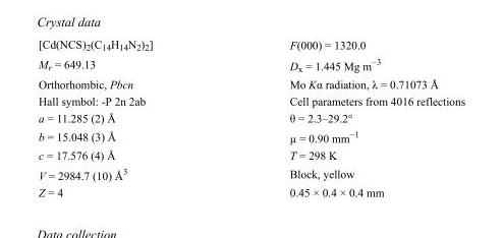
<table><tbody><tr><td>[Cd(NCS)<sub>2</sub>(C<sub>14</sub>H<sub>14</sub>N<sub>2</sub>)<sub>2</sub>]</td><td>F(000) = 1320.0</td></tr><tr><td>M<sub>r</sub> = 649.13</td><td>D<sub>x</sub> = 1.445 Mg m<sup>−3</sup></td></tr><tr><td>Orthorhombic, Pbcn</td><td>Mo Kα radiation, λ = 0.71073 Å</td></tr><tr><td>Hall symbol: -P 2n 2ab</td><td>Cell parameters from 4016 reflections</td></tr><tr><td>a = 11.285 (2) Å</td><td>θ = 2.3–29.2°</td></tr><tr><td>b = 15.048 (3) Å</td><td>µ = 0.90 mm<sup>−1</sup></td></tr><tr><td>c = 17.576 (4) Å</td><td>T = 298 K</td></tr><tr><td>V = 2984.7 (10) Å<sup>3</sup></td><td>Block, yellow</td></tr><tr><td>Z = 4</td><td>0.45 × 0.4 × 0.4 mm</td></tr></tbody></table>